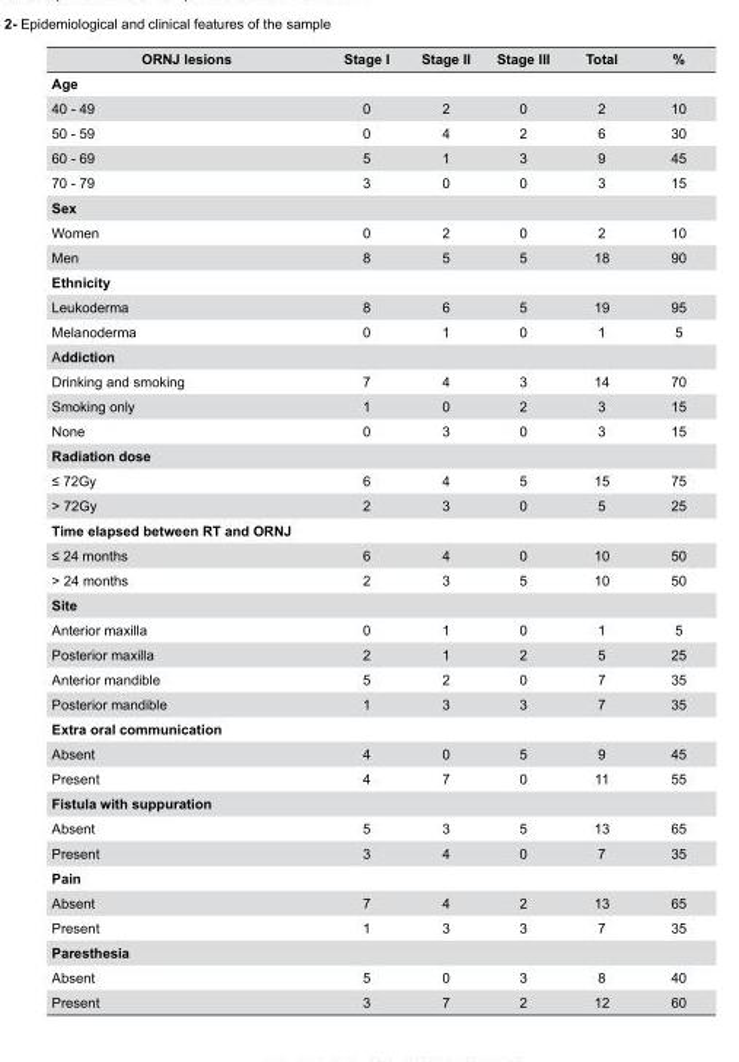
<table><thead><tr><td>ORNJ lesions</td><td>Stage I</td><td>Stage II</td><td>Stage III</td><td>Total</td><td>%</td></tr></thead><tbody><tr><td colspan="6">Age</td></tr><tr><td>40 - 49</td><td>0</td><td>2</td><td>0</td><td>2</td><td>10</td></tr><tr><td>50 - 59</td><td>0</td><td>4</td><td>2</td><td>6</td><td>30</td></tr><tr><td>60 - 69</td><td>5</td><td>1</td><td>3</td><td>9</td><td>45</td></tr><tr><td>70 - 79</td><td>3</td><td>0</td><td>0</td><td>3</td><td>15</td></tr><tr><td colspan="6">Sex</td></tr><tr><td>Women</td><td>0</td><td>2</td><td>0</td><td>2</td><td>10</td></tr><tr><td>Men</td><td>8</td><td>5</td><td>5</td><td>18</td><td>90</td></tr><tr><td colspan="6">Ethnicity</td></tr><tr><td>Leukoderma</td><td>8</td><td>6</td><td>5</td><td>19</td><td>95</td></tr><tr><td>Melanoderma</td><td>0</td><td>1</td><td>0</td><td>1</td><td>5</td></tr><tr><td colspan="6">Addiction</td></tr><tr><td>Drinking and smoking</td><td>7</td><td>4</td><td>3</td><td>14</td><td>70</td></tr><tr><td>Smoking only</td><td>1</td><td>0</td><td>2</td><td>3</td><td>15</td></tr><tr><td>None</td><td>0</td><td>3</td><td>0</td><td>3</td><td>15</td></tr><tr><td colspan="6">Radiation dose</td></tr><tr><td>≤ 72Gy</td><td>6</td><td>4</td><td>5</td><td>15</td><td>75</td></tr><tr><td>&gt; 72Gy</td><td>2</td><td>3</td><td>0</td><td>5</td><td>25</td></tr><tr><td colspan="6">Time elapsed between RT and ORNJ</td></tr><tr><td>≤ 24 months</td><td>6</td><td>4</td><td>0</td><td>10</td><td>50</td></tr><tr><td>&gt; 24 months</td><td>2</td><td>3</td><td>5</td><td>10</td><td>50</td></tr><tr><td colspan="6">Site</td></tr><tr><td>Anterior maxilla</td><td>0</td><td>1</td><td>0</td><td>1</td><td>5</td></tr><tr><td>Posterior maxilla</td><td>2</td><td>1</td><td>2</td><td>5</td><td>25</td></tr><tr><td>Anterior mandible</td><td>5</td><td>2</td><td>0</td><td>7</td><td>35</td></tr><tr><td>Posterior mandible</td><td>1</td><td>3</td><td>3</td><td>7</td><td>35</td></tr><tr><td colspan="6">Extra oral communication</td></tr><tr><td>Absent</td><td>4</td><td>0</td><td>5</td><td>9</td><td>45</td></tr><tr><td>Present</td><td>4</td><td>7</td><td>0</td><td>11</td><td>55</td></tr><tr><td colspan="6">Fistula with suppuration</td></tr><tr><td>Absent</td><td>5</td><td>3</td><td>5</td><td>13</td><td>65</td></tr><tr><td>Present</td><td>3</td><td>4</td><td>0</td><td>7</td><td>35</td></tr><tr><td colspan="6">Pain</td></tr><tr><td>Absent</td><td>7</td><td>4</td><td>2</td><td>13</td><td>65</td></tr><tr><td>Present</td><td>1</td><td>3</td><td>3</td><td>7</td><td>35</td></tr><tr><td colspan="6">Paresthesia</td></tr><tr><td>Absent</td><td>5</td><td>0</td><td>3</td><td>8</td><td>40</td></tr><tr><td>Present</td><td>3</td><td>7</td><td>2</td><td>12</td><td>60</td></tr></tbody></table>